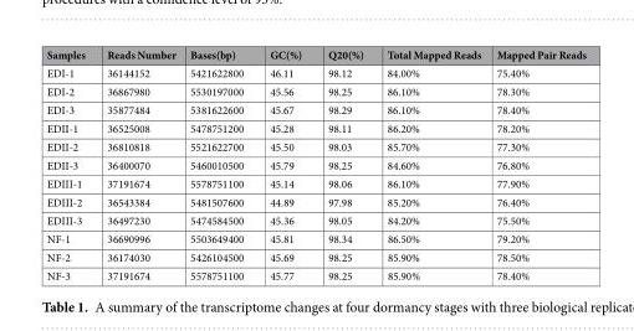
<table><thead><tr><td>Samples</td><td>Reads Number</td><td>Bases(bp)</td><td>GC(%)</td><td>Q20(%)</td><td>Total Mapped Reads</td><td>Mapped Pair Reads</td></tr></thead><tbody><tr><td>EDI-1</td><td>36144152</td><td>5421622800</td><td>46.11</td><td>98.12</td><td>84.00%</td><td>75.40%</td></tr><tr><td>EDI-2</td><td>36867980</td><td>5530197000</td><td>45.56</td><td>98.25</td><td>86.10%</td><td>78.30%</td></tr><tr><td>EDI-3</td><td>35877484</td><td>5381622600</td><td>45.67</td><td>98.29</td><td>86.10%</td><td>78.40%</td></tr><tr><td>EDII-1</td><td>36525008</td><td>5478751200</td><td>45.28</td><td>98.11</td><td>86.20%</td><td>78.20%</td></tr><tr><td>EDII-2</td><td>36810818</td><td>5521622700</td><td>45.50</td><td>98.03</td><td>85.70%</td><td>77.30%</td></tr><tr><td>EDII-3</td><td>36400070</td><td>5460010500</td><td>45.79</td><td>98.25</td><td>84.60%</td><td>76.80%</td></tr><tr><td>EDIII-1</td><td>37191674</td><td>5578751100</td><td>45.14</td><td>98.06</td><td>86.10%</td><td>77.90%</td></tr><tr><td>EDIII-2</td><td>36543384</td><td>5481507600</td><td>44.89</td><td>97.98</td><td>85.20%</td><td>76.40%</td></tr><tr><td>EDIII-3</td><td>36497230</td><td>5474584500</td><td>45.36</td><td>98.05</td><td>84.20%</td><td>75.50%</td></tr><tr><td>NF-1</td><td>36690996</td><td>5503649400</td><td>45.81</td><td>98.34</td><td>86.50%</td><td>79.20%</td></tr><tr><td>NF-2</td><td>36174030</td><td>5426104500</td><td>45.69</td><td>98.25</td><td>85.90%</td><td>78.50%</td></tr><tr><td>NF-3</td><td>37191674</td><td>5578751100</td><td>45.77</td><td>98.25</td><td>85.90%</td><td>78.40%</td></tr></tbody></table>